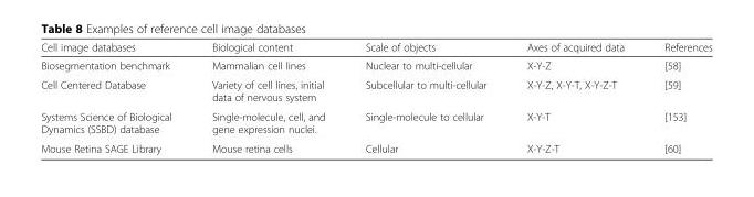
<table><thead><tr><td>Cell image databases</td><td>Biological content</td><td>Scale of objects</td><td>Axes of acquired data</td><td>References</td></tr></thead><tbody><tr><td>Biosegmentation benchmark</td><td>Mammalian cell lines</td><td>Nuclear to multi-cellular</td><td>X-Y-Z</td><td>[58]</td></tr><tr><td>Cell Centered Database</td><td>Variety of cell lines, initial data of nervous system</td><td>Subcellular to multi-cellular</td><td>X-Y-Z, X-Y-T, X-Y-Z-T</td><td>[59]</td></tr><tr><td>Systems Science of Biological Dynamics (SSBD) database</td><td>Single-molecule, cell, and gene expression nuclei.</td><td>Single-molecule to cellular</td><td>X-Y-T</td><td>[153]</td></tr><tr><td>Mouse Retina SAGE Library</td><td>Mouse retina cells</td><td>Cellular</td><td>X-Y-Z-T</td><td>[60]</td></tr></tbody></table>